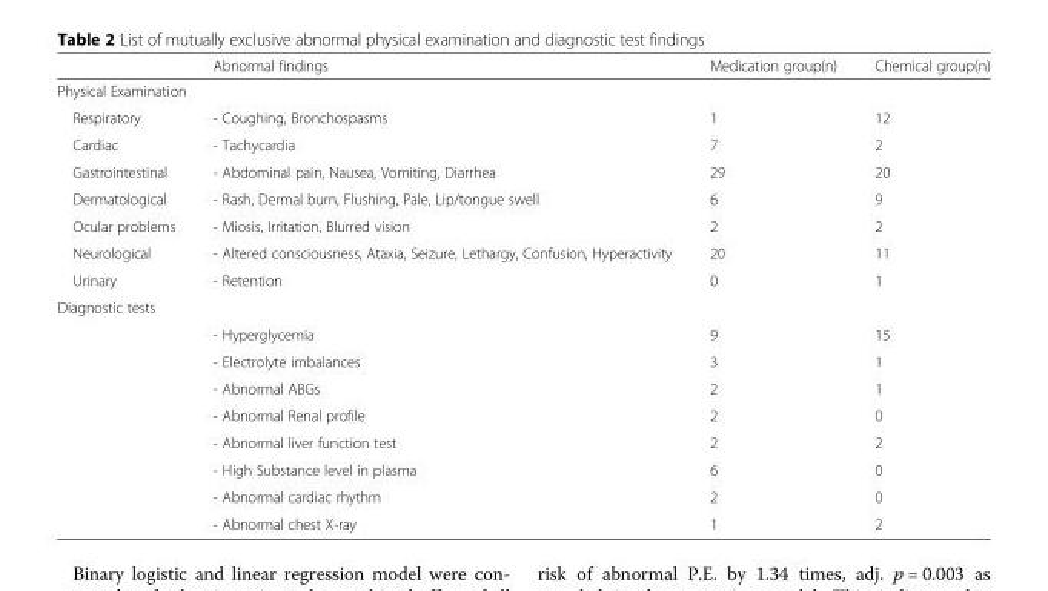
<table><thead><tr><td></td><td>Abnormal findings</td><td>Medication group(n)</td><td>Chemical group(n)</td></tr></thead><tbody><tr><td colspan="4">Physical Examination</td></tr><tr><td>Respiratory</td><td>- Coughing, Bronchospasms</td><td>1</td><td>12</td></tr><tr><td>Cardiac</td><td>- Tachycardia</td><td>7</td><td>2</td></tr><tr><td>Gastrointestinal</td><td>- Abdominal pain, Nausea, Vomiting, Diarrhea</td><td>29</td><td>20</td></tr><tr><td>Dermatological</td><td>- Rash, Dermal burn, Flushing, Pale, Lip/tongue swell</td><td>6</td><td>9</td></tr><tr><td>Ocular problems</td><td>- Miosis, Irritation, Blurred vision</td><td>2</td><td>2</td></tr><tr><td>Neurological</td><td>- Altered consciousness, Ataxia, Seizure, Lethargy, Confusion, Hyperactivity</td><td>20</td><td>11</td></tr><tr><td>Urinary</td><td>- Retention</td><td>0</td><td>1</td></tr><tr><td colspan="4">Diagnostic tests</td></tr><tr><td rowspan="8"></td><td>- Hyperglycemia</td><td>9</td><td>15</td></tr><tr><td>- Electrolyte imbalances</td><td>3</td><td>1</td></tr><tr><td>- Abnormal ABGs</td><td>2</td><td>1</td></tr><tr><td>- Abnormal Renal profile</td><td>2</td><td>0</td></tr><tr><td>- Abnormal liver function test</td><td>2</td><td>2</td></tr><tr><td>- High Substance level in plasma</td><td>6</td><td>0</td></tr><tr><td>- Abnormal cardiac rhythm</td><td>2</td><td>0</td></tr><tr><td>- Abnormal chest X-ray</td><td>1</td><td>2</td></tr></tbody></table>